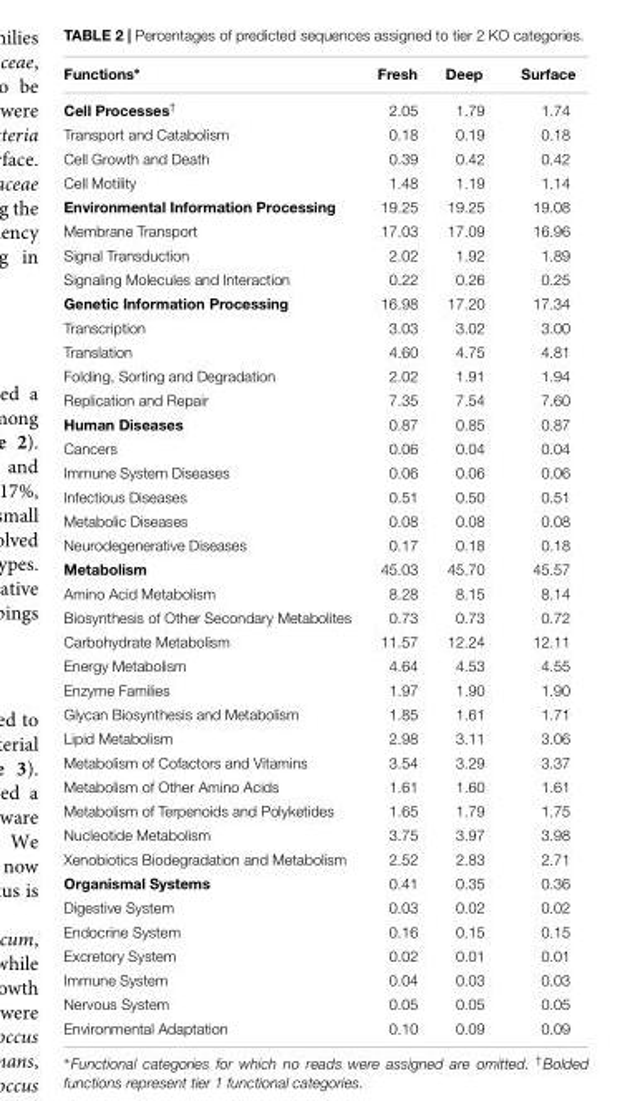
<table><thead><tr><td>Functions∗</td><td>Fresh</td><td>Deep</td><td>Surface</td></tr></thead><tbody><tr><td>Cell Processes<sup>†</sup></td><td>2.05</td><td>1.79</td><td>1.74</td></tr><tr><td>Transport and Catabolism</td><td>0.18</td><td>0.19</td><td>0.18</td></tr><tr><td>Cell Growth and Death</td><td>0.39</td><td>0.42</td><td>0.42</td></tr><tr><td>Cell Motility</td><td>1.48</td><td>1.19</td><td>1.14</td></tr><tr><td>Environmental Information Processing</td><td>19.25</td><td>19.25</td><td>19.08</td></tr><tr><td>Membrane Transport</td><td>17.03</td><td>17.09</td><td>16.96</td></tr><tr><td>Signal Transduction</td><td>2.02</td><td>1.92</td><td>1.89</td></tr><tr><td>Signaling Molecules and Interaction</td><td>0.22</td><td>0.26</td><td>0.25</td></tr><tr><td>Genetic Information Processing</td><td>16.98</td><td>17.20</td><td>17.34</td></tr><tr><td>Transcription</td><td>3.03</td><td>3.02</td><td>3.00</td></tr><tr><td>Translation</td><td>4.60</td><td>4.75</td><td>4.81</td></tr><tr><td>Folding, Sorting and Degradation</td><td>2.02</td><td>1.91</td><td>1.94</td></tr><tr><td>Replication and Repair</td><td>7.35</td><td>7.54</td><td>7.60</td></tr><tr><td>Human Diseases</td><td>0.87</td><td>0.85</td><td>0.87</td></tr><tr><td>Cancers</td><td>0.06</td><td>0.04</td><td>0.04</td></tr><tr><td>Immune System Diseases</td><td>0.06</td><td>0.06</td><td>0.06</td></tr><tr><td>Infectious Diseases</td><td>0.51</td><td>0.50</td><td>0.51</td></tr><tr><td>Metabolic Diseases</td><td>0.08</td><td>0.08</td><td>0.08</td></tr><tr><td>Neurodegenerative Diseases</td><td>0.17</td><td>0.18</td><td>0.18</td></tr><tr><td>Metabolism</td><td>45.03</td><td>45.70</td><td>45.57</td></tr><tr><td>Amino Acid Metabolism</td><td>8.28</td><td>8.15</td><td>8.14</td></tr><tr><td>Biosynthesis of Other Secondary Metabolites</td><td>0.73</td><td>0.73</td><td>0.72</td></tr><tr><td>Carbohydrate Metabolism</td><td>11.57</td><td>12.24</td><td>12.11</td></tr><tr><td>Energy Metabolism</td><td>4.64</td><td>4.53</td><td>4.55</td></tr><tr><td>Enzyme Families</td><td>1.97</td><td>1.90</td><td>1.90</td></tr><tr><td>Glycan Biosynthesis and Metabolism</td><td>1.85</td><td>1.61</td><td>1.71</td></tr><tr><td>Lipid Metabolism</td><td>2.98</td><td>3.11</td><td>3.06</td></tr><tr><td>Metabolism of Cofactors and Vitamins</td><td>3.54</td><td>3.29</td><td>3.37</td></tr><tr><td>Metabolism of Other Amino Acids</td><td>1.61</td><td>1.60</td><td>1.61</td></tr><tr><td>Metabolism of Terpenoids and Polyketides</td><td>1.65</td><td>1.79</td><td>1.75</td></tr><tr><td>Nucleotide Metabolism</td><td>3.75</td><td>3.97</td><td>3.98</td></tr><tr><td>Xenobiotics Biodegradation and Metabolism</td><td>2.52</td><td>2.83</td><td>2.71</td></tr><tr><td>Organismal Systems</td><td>0.41</td><td>0.35</td><td>0.36</td></tr><tr><td>Digestive System</td><td>0.03</td><td>0.02</td><td>0.02</td></tr><tr><td>Endocrine System</td><td>0.16</td><td>0.15</td><td>0.15</td></tr><tr><td>Excretory System</td><td>0.02</td><td>0.01</td><td>0.01</td></tr><tr><td>Immune System</td><td>0.04</td><td>0.03</td><td>0.03</td></tr><tr><td>Nervous System</td><td>0.05</td><td>0.05</td><td>0.05</td></tr><tr><td>Environmental Adaptation</td><td>0.10</td><td>0.09</td><td>0.09</td></tr></tbody></table>